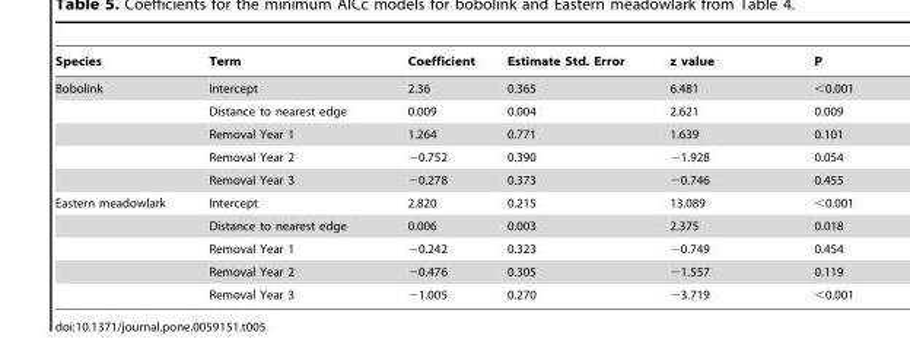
<table><thead><tr><td>Species</td><td>Term</td><td>Coefficient</td><td>Estimate Std. Error</td><td>z value</td><td>P</td></tr></thead><tbody><tr><td rowspan="5">Bobolink</td><td>Intercept</td><td>2.36</td><td>0.365</td><td>6.481</td><td>&lt;0.001</td></tr><tr><td>Distance to nearest edge</td><td>0.009</td><td>0.004</td><td>2.621</td><td>0.009</td></tr><tr><td>Removal Year 1</td><td>1.264</td><td>0.771</td><td>1.639</td><td>0.101</td></tr><tr><td>Removal Year 2</td><td>−0.752</td><td>0.390</td><td>−1.928</td><td>0.054</td></tr><tr><td>Removal Year 3</td><td>−0.278</td><td>0.373</td><td>−0.746</td><td>0.455</td></tr><tr><td rowspan="5">Eastern meadowlark</td><td>Intercept</td><td>2.820</td><td>0.215</td><td>13.089</td><td>&lt;0.001</td></tr><tr><td>Distance to nearest edge</td><td>0.006</td><td>0.003</td><td>2.375</td><td>0.018</td></tr><tr><td>Removal Year 1</td><td>−0.242</td><td>0.323</td><td>−0.749</td><td>0.454</td></tr><tr><td>Removal Year 2</td><td>−0.476</td><td>0.305</td><td>−1.557</td><td>0.119</td></tr><tr><td>Removal Year 3</td><td>−1.005</td><td>0.270</td><td>−3.719</td><td>&lt;0.001</td></tr></tbody></table>